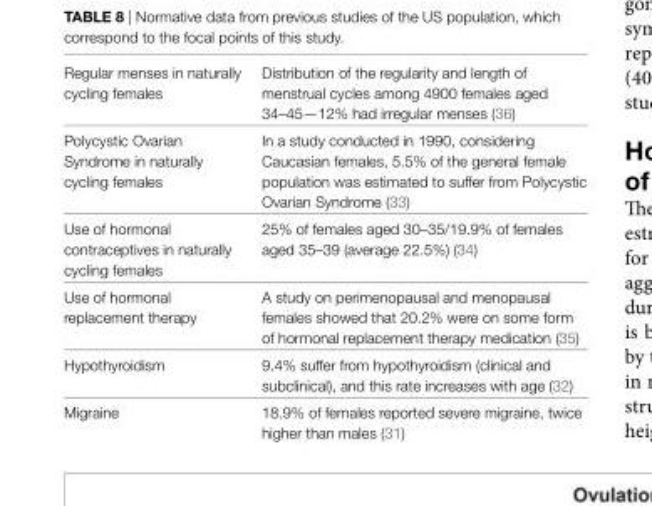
<table><tbody><tr><td>Regular menses in naturally cycling females</td><td>Distribution of the regularity and length of menstrual cycles among 4900 females aged 34–45—12% had irregular menses (36)</td></tr><tr><td>Polycystic Ovarian Syndrome in naturally cycling females</td><td>In a study conducted in 1990, considering Caucasian females, 5.5% of the general female population was estimated to suffer from Polycystic Ovarian Syndrome (33)</td></tr><tr><td>Use of hormonal contraceptives in naturally cycling females</td><td>25% of females aged 30–35/19.9% of females aged 35–39 (average 22.5%) (34)</td></tr><tr><td>Use of hormonal replacement therapy</td><td>A study on perimenopausal and menopausal females showed that 20.2% were on some form of hormonal replacement therapy medication (35)</td></tr><tr><td>Hypothyroidism</td><td>9.4% suffer from hypothyroidism (clinical and subclinical), and this rate increases with age (32)</td></tr><tr><td>Migraine</td><td>18.9% of females reported severe migraine, twice higher than males (31)</td></tr></tbody></table>